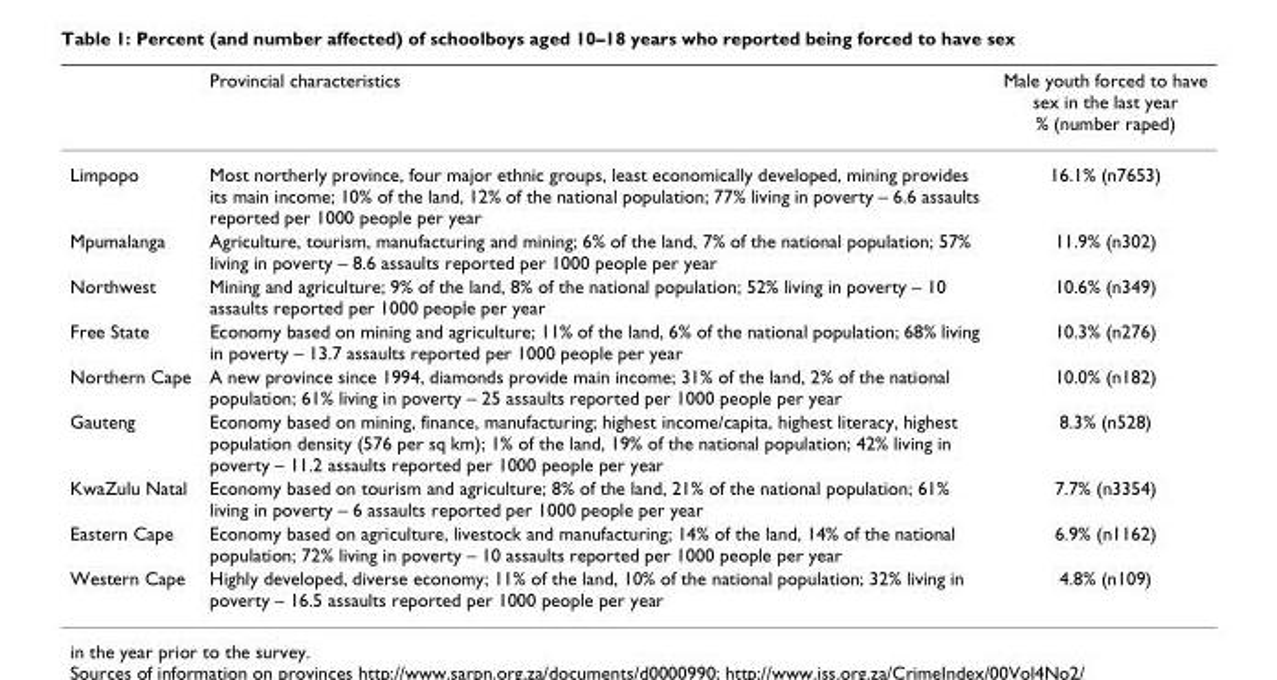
<table><thead><tr><td></td><td>Provincial characteristics</td><td>Male youth forced to have sex in the last year % (number raped)</td></tr></thead><tbody><tr><td>Limpopo</td><td>Most northerly province, four major ethnic groups, least economically developed, mining provides its main income; 10% of the land, 12% of the national population; 77% living in poverty – 6.6 assaults reported per 1000 people per year</td><td>16.1% (n7653)</td></tr><tr><td>Mpumalanga</td><td>Agriculture, tourism, manufacturing and mining; 6% of the land, 7% of the national population; 57% living in poverty – 8.6 assaults reported per 1000 people per year</td><td>11.9% (n302)</td></tr><tr><td>Northwest</td><td>Mining and agriculture; 9% of the land, 8% of the national population; 52% living in poverty – 10 assaults reported per 1000 people per year</td><td>10.6% (n349)</td></tr><tr><td>Free State</td><td>Economy based on mining and agriculture; 11% of the land, 6% of the national population; 68% living in poverty – 13.7 assaults reported per 1000 people per year</td><td>10.3% (n276)</td></tr><tr><td>Northern Cape</td><td>A new province since 1994, diamonds provide main income; 31% of the land, 2% of the national population; 61% living in poverty – 25 assaults reported per 1000 people per year</td><td>10.0% (n182)</td></tr><tr><td>Gauteng</td><td>Economy based on mining, finance, manufacturing; highest income/capita, highest literacy, highest population density (576 per sq km); 1% of the land, 19% of the national population; 42% living in poverty – 11.2 assaults reported per 1000 people per year</td><td>8.3% (n528)</td></tr><tr><td>KwaZulu Natal</td><td>Economy based on tourism and agriculture; 8% of the land, 21% of the national population; 61% living in poverty – 6 assaults reported per 1000 people per year</td><td>7.7% (n3354)</td></tr><tr><td>Eastern Cape</td><td>Economy based on agriculture, livestock and manufacturing; 14% of the land, 14% of the national population; 72% living in poverty – 10 assaults reported per 1000 people per year</td><td>6.9% (n1162)</td></tr><tr><td>Western Cape</td><td>Highly developed, diverse economy; 11% of the land, 10% of the national population; 32% living in poverty – 16.5 assaults reported per 1000 people per year</td><td>4.8% (n109)</td></tr></tbody></table>